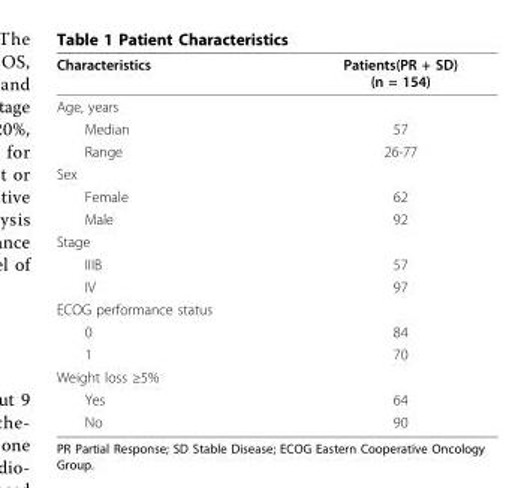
<table><thead><tr><td>Characteristics</td><td>Patients(PR + SD) (n = 154)</td></tr></thead><tbody><tr><td colspan="2">Age, years</td></tr><tr><td>Median</td><td>57</td></tr><tr><td>Range</td><td>26-77</td></tr><tr><td colspan="2">Sex</td></tr><tr><td>Female</td><td>62</td></tr><tr><td>Male</td><td>92</td></tr><tr><td colspan="2">Stage</td></tr><tr><td>IIIB</td><td>57</td></tr><tr><td>IV</td><td>97</td></tr><tr><td colspan="2">ECOG performance status</td></tr><tr><td>0</td><td>84</td></tr><tr><td>1</td><td>70</td></tr><tr><td colspan="2">Weight loss ≥5%</td></tr><tr><td>Yes</td><td>64</td></tr><tr><td>No</td><td>90</td></tr></tbody></table>